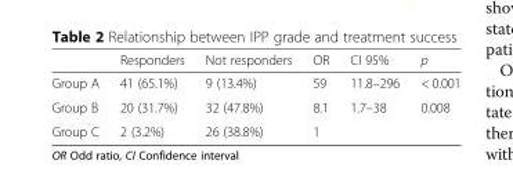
<table><thead><tr><td></td><td>Responders</td><td>Not responders</td><td>OR</td><td>CI 95%</td><td>p</td></tr></thead><tbody><tr><td>Group A</td><td>41 (65.1%)</td><td>9 (13.4%)</td><td>59</td><td>11.8–296</td><td>&lt; 0.001</td></tr><tr><td>Group B</td><td>20 (31.7%)</td><td>32 (47.8%)</td><td>8.1</td><td>1.7–38</td><td>0.008</td></tr><tr><td>Group C</td><td>2 (3.2%)</td><td>26 (38.8%)</td><td>1</td><td></td><td></td></tr></tbody></table>